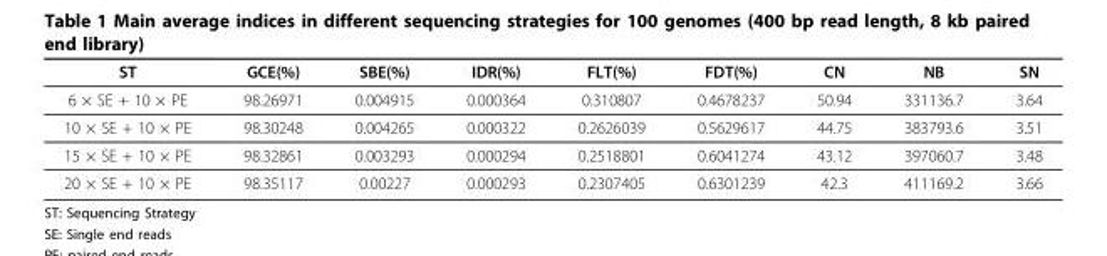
<table><thead><tr><td>ST</td><td>GCE(%)</td><td>SBE(%)</td><td>IDR(%)</td><td>FLT(%)</td><td>FDT(%)</td><td>CN</td><td>NB</td><td>SN</td></tr></thead><tbody><tr><td>6 × SE + 10 × PE</td><td>98.26971</td><td>0.004915</td><td>0.000364</td><td>0.310807</td><td>0.4678237</td><td>50.94</td><td>331136.7</td><td>3.64</td></tr><tr><td>10 × SE + 10 × PE</td><td>98.30248</td><td>0.004265</td><td>0.000322</td><td>0.2626039</td><td>0.5629617</td><td>44.75</td><td>383793.6</td><td>3.51</td></tr><tr><td>15 × SE + 10 × PE</td><td>98.32861</td><td>0.003293</td><td>0.000294</td><td>0.2518801</td><td>0.6041274</td><td>43.12</td><td>397060.7</td><td>3.48</td></tr><tr><td>20 × SE + 10 × PE</td><td>98.35117</td><td>0.00227</td><td>0.000293</td><td>0.2307405</td><td>0.6301239</td><td>42.3</td><td>411169.2</td><td>3.66</td></tr></tbody></table>